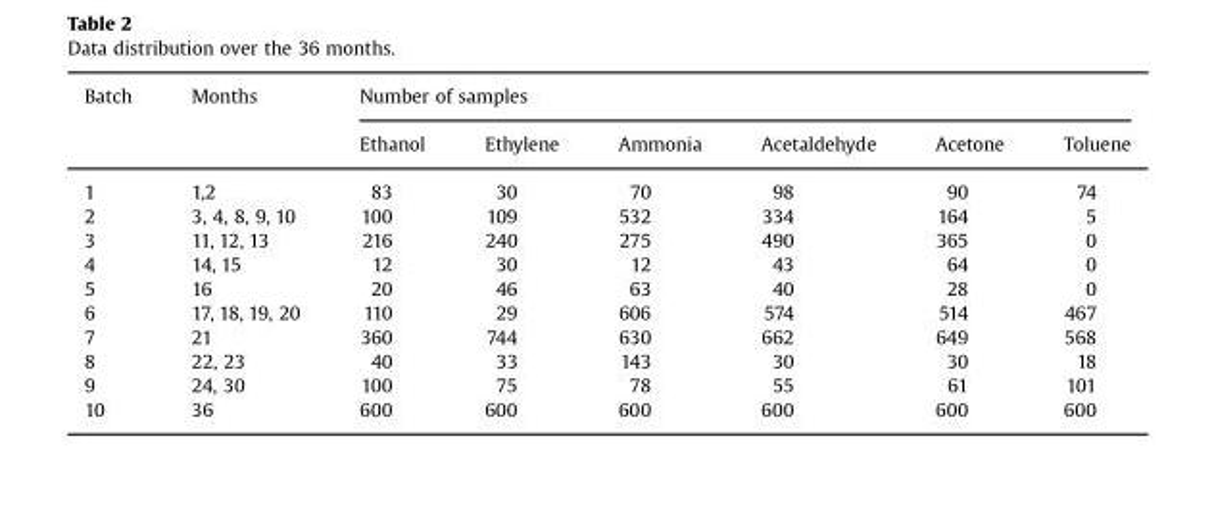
<table><thead><tr><td rowspan="2">Batch</td><td rowspan="2">Months</td><td colspan="6">Number of samples</td></tr><tr><td>Ethanol</td><td>Ethylene</td><td>Ammonia</td><td>Acetaldehyde</td><td>Acetone</td><td>Toluene</td></tr></thead><tbody><tr><td>1</td><td>1,2</td><td>83</td><td>30</td><td>70</td><td>98</td><td>90</td><td>74</td></tr><tr><td>2</td><td>3, 4, 8, 9, 10</td><td>100</td><td>109</td><td>532</td><td>334</td><td>164</td><td>5</td></tr><tr><td>3</td><td>11, 12, 13</td><td>216</td><td>240</td><td>275</td><td>490</td><td>365</td><td>0</td></tr><tr><td>4</td><td>14, 15</td><td>12</td><td>30</td><td>12</td><td>43</td><td>64</td><td>0</td></tr><tr><td>5</td><td>16</td><td>20</td><td>46</td><td>63</td><td>40</td><td>28</td><td>0</td></tr><tr><td>6</td><td>17, 18, 19, 20</td><td>110</td><td>29</td><td>606</td><td>574</td><td>514</td><td>467</td></tr><tr><td>7</td><td>21</td><td>360</td><td>744</td><td>630</td><td>662</td><td>649</td><td>568</td></tr><tr><td>8</td><td>22, 23</td><td>40</td><td>33</td><td>143</td><td>30</td><td>30</td><td>18</td></tr><tr><td>9</td><td>24, 30</td><td>100</td><td>75</td><td>78</td><td>55</td><td>61</td><td>101</td></tr><tr><td>10</td><td>36</td><td>600</td><td>600</td><td>600</td><td>600</td><td>600</td><td>600</td></tr></tbody></table>